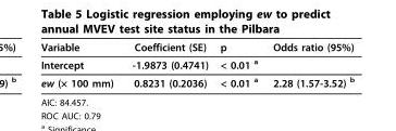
<table><thead><tr><td>Variable</td><td>Coefficient (SE)</td><td>p</td><td>Odds ratio (95%)</td></tr></thead><tbody><tr><td>Intercept</td><td>-1.9873 (0.4741)</td><td>&lt; 0.01 <sup>a</sup></td><td></td></tr><tr><td>ew (× 100 mm)</td><td>0.8231 (0.2036)</td><td>&lt; 0.01 <sup>a</sup></td><td>2.28 (1.57-3.52) <sup>b</sup></td></tr></tbody></table>